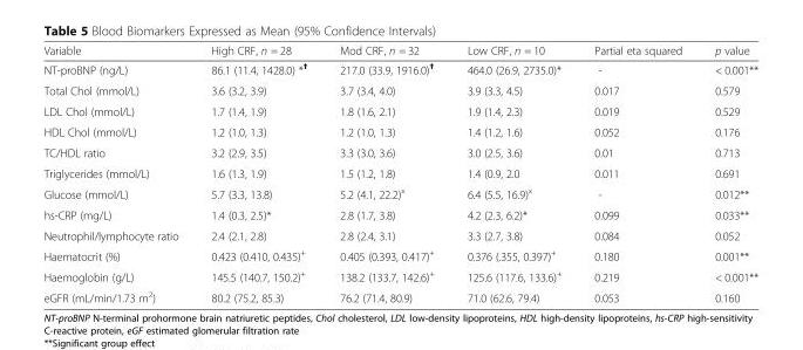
<table><thead><tr><td>Variable</td><td>High CRF, n = 28</td><td>Mod CRF, n = 32</td><td>Low CRF, n = 10</td><td>Partial eta squared</td><td>p value</td></tr></thead><tbody><tr><td>NT-proBNP (ng/L)</td><td>86.1 (11.4, 1428.0) *<sup>✝</sup></td><td>217.0 (33.9, 1916.0)<sup>✝</sup></td><td>464.0 (26.9, 2735.0)*</td><td>-</td><td>&lt; 0.001**</td></tr><tr><td>Total Chol (mmol/L)</td><td>3.6 (3.2, 3.9)</td><td>3.7 (3.4, 4.0)</td><td>3.9 (3.3, 4.5)</td><td>0.017</td><td>0.579</td></tr><tr><td>LDL Chol (mmol/L)</td><td>1.7 (1.4, 1.9)</td><td>1.8 (1.6, 2.1)</td><td>1.9 (1.4, 2.3)</td><td>0.019</td><td>0.529</td></tr><tr><td>HDL Chol (mmol/L)</td><td>1.2 (1.0, 1.3)</td><td>1.2 (1.0, 1.3)</td><td>1.4 (1.2, 1.6)</td><td>0.052</td><td>0.176</td></tr><tr><td>TC/HDL ratio</td><td>3.2 (2.9, 3.5)</td><td>3.3 (3.0, 3.6)</td><td>3.0 (2.5, 3.6)</td><td>0.01</td><td>0.713</td></tr><tr><td>Triglycerides (mmol/L)</td><td>1.6 (1.3, 1.9)</td><td>1.5 (1.2, 1.8)</td><td>1.4 (0.9, 2.0</td><td>0.011</td><td>0.691</td></tr><tr><td>Glucose (mmol/L)</td><td>5.7 (3.3, 13.8)</td><td>5.2 (4.1, 22.2)<sup>x</sup></td><td>6.4 (5.5, 16.9)<sup>x</sup></td><td>-</td><td>0.012**</td></tr><tr><td>hs-CRP (mg/L)</td><td>1.4 (0.3, 2.5)*</td><td>2.8 (1.7, 3.8)</td><td>4.2 (2.3, 6.2)*</td><td>0.099</td><td>0.033**</td></tr><tr><td>Neutrophil/lymphocyte ratio</td><td>2.4 (2.1, 2.8)</td><td>2.8 (2.4, 3.1)</td><td>3.3 (2.7, 3.8)</td><td>0.084</td><td>0.052</td></tr><tr><td>Haematocrit (%)</td><td>0.423 (0.410, 0.435)<sup>+</sup></td><td>0.405 (0.393, 0.417)<sup>+</sup></td><td>0.376 (.355, 0.397)<sup>+</sup></td><td>0.180</td><td>0.001**</td></tr><tr><td>Haemoglobin (g/L)</td><td>145.5 (140.7, 150.2)<sup>+</sup></td><td>138.2 (133.7, 142.6)<sup>+</sup></td><td>125.6 (117.6, 133.6)<sup>+</sup></td><td>0.219</td><td>&lt; 0.001**</td></tr><tr><td>eGFR (mL/min/1.73 m<sup>2</sup>)</td><td>80.2 (75.2, 85.3)</td><td>76.2 (71.4, 80.9)</td><td>71.0 (62.6, 79.4)</td><td>0.053</td><td>0.160</td></tr></tbody></table>